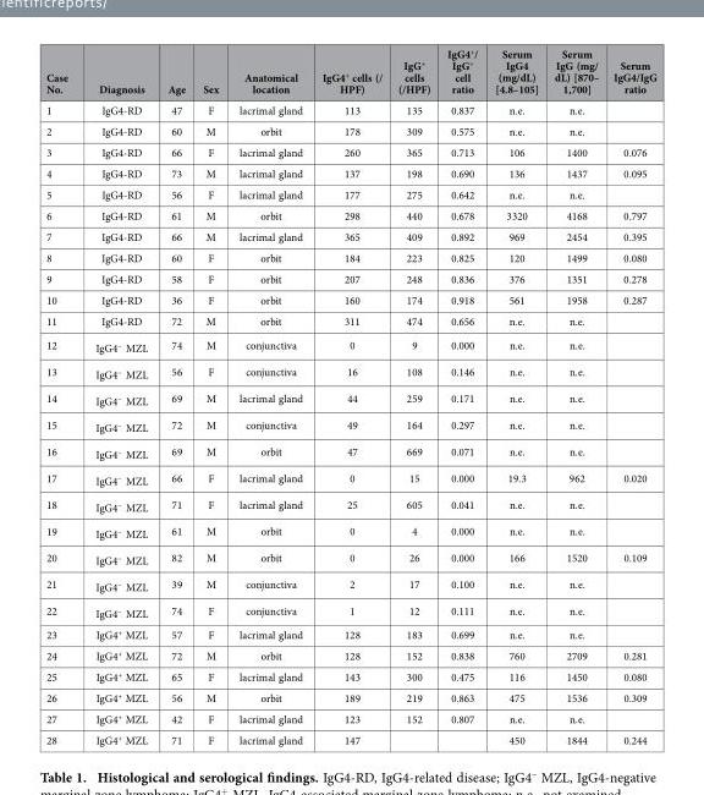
<table><thead><tr><td>Case No.</td><td>Diagnosis</td><td>Age</td><td>Sex</td><td>Anatomical location</td><td>IgG4<sup>+</sup> cells (/ HPF)</td><td>IgG<sup>+</sup> cells (/HPF)</td><td>IgG4<sup>+</sup>/ IgG<sup>+</sup> cell ratio</td><td>Serum IgG4 (mg/dL) [4.8–105]</td><td>Serum IgG (mg/ dL) [870– 1,700]</td><td>Serum IgG4/IgG ratio</td></tr></thead><tbody><tr><td>1</td><td>IgG4-RD</td><td>47</td><td>F</td><td>lacrimal gland</td><td>113</td><td>135</td><td>0.837</td><td>n.e.</td><td>n.e.</td><td></td></tr><tr><td>2</td><td>IgG4-RD</td><td>60</td><td>M</td><td>orbit</td><td>178</td><td>309</td><td>0.575</td><td>n.e.</td><td>n.e.</td><td></td></tr><tr><td>3</td><td>IgG4-RD</td><td>66</td><td>F</td><td>lacrimal gland</td><td>260</td><td>365</td><td>0.713</td><td>106</td><td>1400</td><td>0.076</td></tr><tr><td>4</td><td>IgG4-RD</td><td>73</td><td>M</td><td>lacrimal gland</td><td>137</td><td>198</td><td>0.690</td><td>136</td><td>1437</td><td>0.095</td></tr><tr><td>5</td><td>IgG4-RD</td><td>56</td><td>F</td><td>lacrimal gland</td><td>177</td><td>275</td><td>0.642</td><td>n.e.</td><td>n.e.</td><td></td></tr><tr><td>6</td><td>IgG4-RD</td><td>61</td><td>M</td><td>orbit</td><td>298</td><td>440</td><td>0.678</td><td>3320</td><td>4168</td><td>0.797</td></tr><tr><td>7</td><td>IgG4-RD</td><td>66</td><td>M</td><td>lacrimal gland</td><td>365</td><td>409</td><td>0.892</td><td>969</td><td>2454</td><td>0.395</td></tr><tr><td>8</td><td>IgG4-RD</td><td>60</td><td>F</td><td>orbit</td><td>184</td><td>223</td><td>0.825</td><td>120</td><td>1499</td><td>0.080</td></tr><tr><td>9</td><td>IgG4-RD</td><td>58</td><td>F</td><td>orbit</td><td>207</td><td>248</td><td>0.836</td><td>376</td><td>1351</td><td>0.278</td></tr><tr><td>10</td><td>IgG4-RD</td><td>36</td><td>F</td><td>orbit</td><td>160</td><td>174</td><td>0.918</td><td>561</td><td>1958</td><td>0.287</td></tr><tr><td>11</td><td>IgG4-RD</td><td>72</td><td>M</td><td>orbit</td><td>311</td><td>474</td><td>0.656</td><td>n.e.</td><td>n.e.</td><td></td></tr><tr><td>12</td><td>IgG4<sup>−</sup> MZL</td><td>74</td><td>M</td><td>conjunctiva</td><td>0</td><td>9</td><td>0.000</td><td>n.e.</td><td>n.e.</td><td></td></tr><tr><td>13</td><td>IgG4<sup>−</sup> MZL</td><td>56</td><td>F</td><td>conjunctiva</td><td>16</td><td>108</td><td>0.146</td><td>n.e.</td><td>n.e.</td><td></td></tr><tr><td>14</td><td>IgG4<sup>−</sup> MZL</td><td>69</td><td>M</td><td>lacrimal gland</td><td>44</td><td>259</td><td>0.171</td><td>n.e.</td><td>n.e.</td><td></td></tr><tr><td>15</td><td>IgG4<sup>−</sup> MZL</td><td>72</td><td>M</td><td>conjunctiva</td><td>49</td><td>164</td><td>0.297</td><td>n.e.</td><td>n.e.</td><td></td></tr><tr><td>16</td><td>IgG4<sup>−</sup> MZL</td><td>69</td><td>M</td><td>orbit</td><td>47</td><td>669</td><td>0.071</td><td>n.e.</td><td>n.e.</td><td></td></tr><tr><td>17</td><td>IgG4<sup>−</sup> MZL</td><td>66</td><td>F</td><td>lacrimal gland</td><td>0</td><td>15</td><td>0.000</td><td>19.3</td><td>962</td><td>0.020</td></tr><tr><td>18</td><td>IgG4<sup>−</sup> MZL</td><td>71</td><td>F</td><td>lacrimal gland</td><td>25</td><td>605</td><td>0.041</td><td>n.e.</td><td>n.e.</td><td></td></tr><tr><td>19</td><td>IgG4<sup>−</sup> MZL</td><td>61</td><td>M</td><td>orbit</td><td>0</td><td>4</td><td>0.000</td><td>n.e.</td><td>n.e.</td><td></td></tr><tr><td>20</td><td>IgG4<sup>−</sup> MZL</td><td>82</td><td>M</td><td>orbit</td><td>0</td><td>26</td><td>0.000</td><td>166</td><td>1520</td><td>0.109</td></tr><tr><td>21</td><td>IgG4<sup>−</sup> MZL</td><td>39</td><td>M</td><td>conjunctiva</td><td>2</td><td>17</td><td>0.100</td><td>n.e.</td><td>n.e.</td><td></td></tr><tr><td>22</td><td>IgG4<sup>−</sup> MZL</td><td>74</td><td>F</td><td>conjunctiva</td><td>1</td><td>12</td><td>0.111</td><td>n.e.</td><td>n.e.</td><td></td></tr><tr><td>23</td><td>IgG4<sup>+</sup> MZL</td><td>57</td><td>F</td><td>lacrimal gland</td><td>128</td><td>183</td><td>0.699</td><td>n.e.</td><td>n.e.</td><td></td></tr><tr><td>24</td><td>IgG4<sup>+</sup> MZL</td><td>72</td><td>M</td><td>orbit</td><td>128</td><td>152</td><td>0.838</td><td>760</td><td>2709</td><td>0.281</td></tr><tr><td>25</td><td>IgG4<sup>+</sup> MZL</td><td>65</td><td>F</td><td>lacrimal gland</td><td>143</td><td>300</td><td>0.475</td><td>116</td><td>1450</td><td>0.080</td></tr><tr><td>26</td><td>IgG4<sup>+</sup> MZL</td><td>56</td><td>M</td><td>orbit</td><td>189</td><td>219</td><td>0.863</td><td>475</td><td>1536</td><td>0.309</td></tr><tr><td>27</td><td>IgG4<sup>+</sup> MZL</td><td>42</td><td>F</td><td>lacrimal gland</td><td>123</td><td>152</td><td>0.807</td><td>n.e.</td><td>n.e.</td><td></td></tr><tr><td>28</td><td>IgG4<sup>+</sup> MZL</td><td>71</td><td>F</td><td>lacrimal gland</td><td>147</td><td></td><td></td><td>450</td><td>1844</td><td>0.244</td></tr></tbody></table>